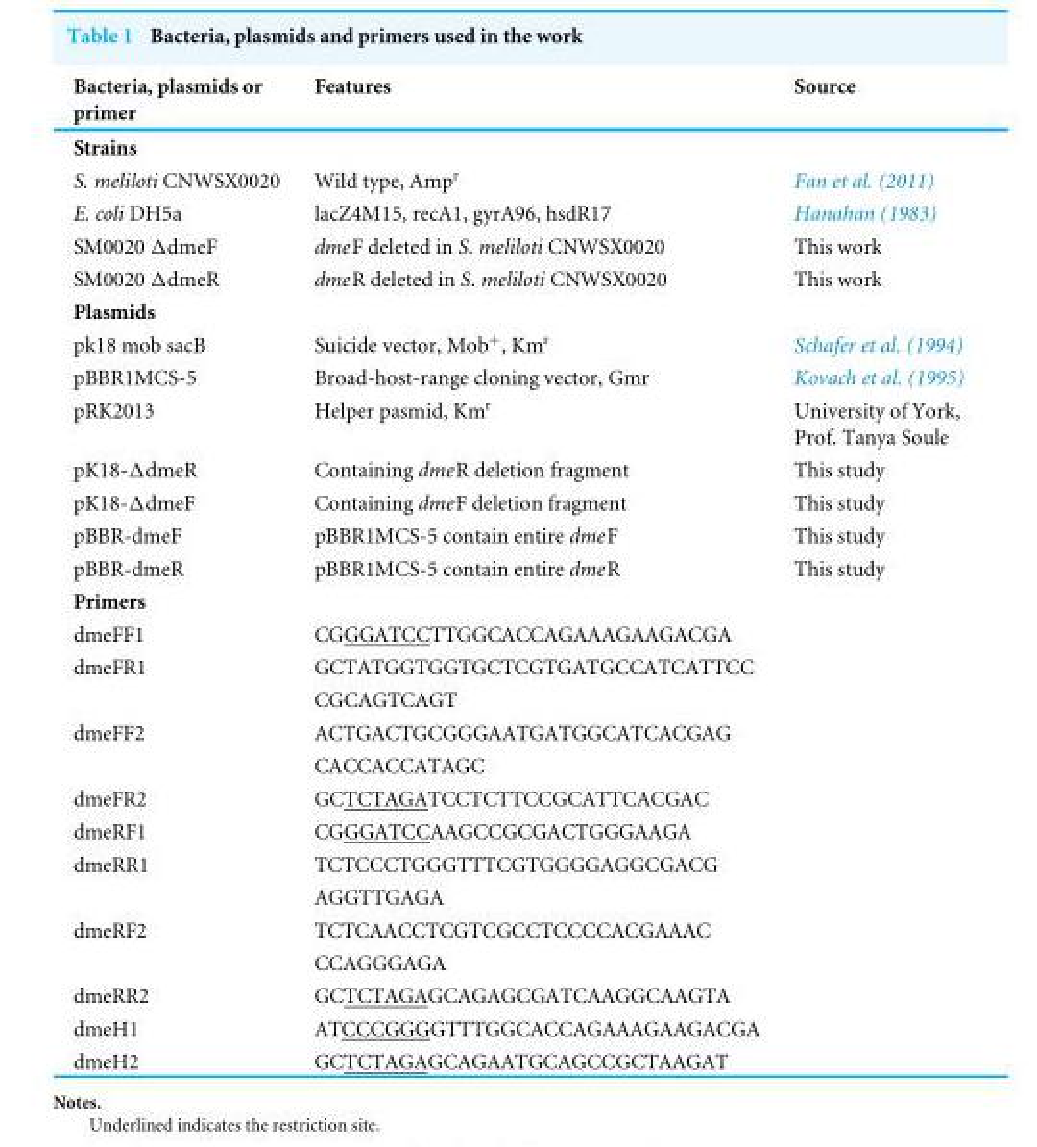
<table><thead><tr><td>Bacteria, plasmids or primer</td><td>Features</td><td>Source</td></tr></thead><tbody><tr><td colspan="3">Strains</td></tr><tr><td>S. meliloti CNWSX0020</td><td>Wild type, Amp<sup>r</sup></td><td>Fan et al. (2011)</td></tr><tr><td>E. coli DH5a</td><td>lacZ4M15, recA1, gyrA96, hsdR17</td><td>Hanahan (1983)</td></tr><tr><td>SM0020 ΔdmeF</td><td>dmeF deleted in S. meliloti CNWSX0020</td><td>This work</td></tr><tr><td>SM0020 ΔdmeR</td><td>dmeR deleted in S. meliloti CNWSX0020</td><td>This work</td></tr><tr><td colspan="3">Plasmids</td></tr><tr><td>pk18 mob sacB</td><td>Suicide vector, Mob<sup>+</sup>, Km<sup>r</sup></td><td>Schafer et al. (1994)</td></tr><tr><td>pBBR1MCS-5</td><td>Broad-host-range cloning vector, Gmr</td><td>Kovach et al. (1995)</td></tr><tr><td>pRK2013</td><td>Helper pasmid, Km<sup>r</sup></td><td>University of York, Prof. Tanya Soule</td></tr><tr><td>pK18-ΔdmeR</td><td>Containing dmeR deletion fragment</td><td>This study</td></tr><tr><td>pK18-ΔdmeF</td><td>Containing dmeF deletion fragment</td><td>This study</td></tr><tr><td>pBBR-dmeF</td><td>pBBR1MCS-5 contain entire dmeF</td><td>This study</td></tr><tr><td>pBBR-dmeR</td><td>pBBR1MCS-5 contain entire dmeR</td><td>This study</td></tr><tr><td colspan="3">Primers</td></tr><tr><td>dmeFF1</td><td>CGGGATCCTTGGCACCAGAAAGAAGACGA</td><td></td></tr><tr><td rowspan="2">dmeFR1</td><td>GCTATGGTGGTGCTCGTGATGCCATCATTCC</td><td></td></tr><tr><td>CGCAGTCAGT</td><td></td></tr><tr><td rowspan="2">dmeFF2</td><td>ACTGACTGCGGGAATGATGGCATCACGAG</td><td></td></tr><tr><td>CACCACCATAGC</td><td></td></tr><tr><td>dmeFR2</td><td>GCTCTAGATCCTCTTCCGCATTCACGAC</td><td></td></tr><tr><td>dmeRF1</td><td>CGGGATCCAAGCCGCGACTGGGAAGA</td><td></td></tr><tr><td rowspan="2">dmeRR1</td><td>TCTCCCTGGGTTTCGTGGGGAGGCGACG</td><td></td></tr><tr><td>AGGTTGAGA</td><td></td></tr><tr><td rowspan="2">dmeRF2</td><td>TCTCAACCTCGTCGCCTCCCCACGAAAC</td><td></td></tr><tr><td>CCAGGGAGA</td><td></td></tr><tr><td>dmeRR2</td><td>GCTCTAGAGCAGAGCGATCAAGGCAAGTA</td><td></td></tr><tr><td>dmeH1</td><td>ATCCCGGGGTTTGGCACCAGAAAGAAGACGA</td><td></td></tr><tr><td>dmeH2</td><td>GCTCTAGAGCAGAATGCAGCCGCTAAGAT</td><td></td></tr></tbody></table>